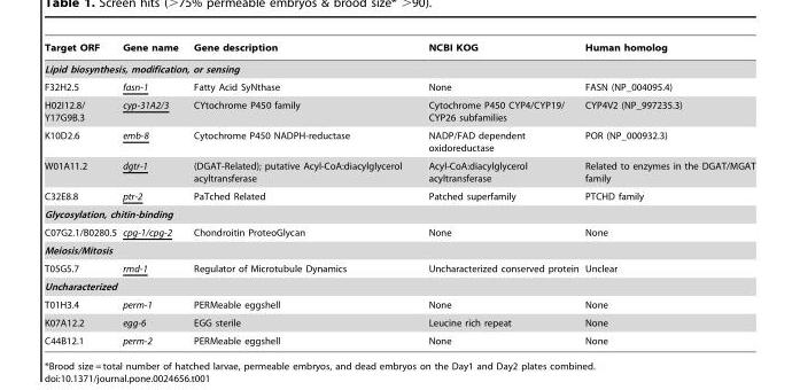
<table><thead><tr><td>Target ORF</td><td>Gene name</td><td>Gene description</td><td>NCBI KOG</td><td>Human homolog</td></tr></thead><tbody><tr><td colspan="5">Lipid biosynthesis, modification, or sensing</td></tr><tr><td>F32H2.5</td><td>fasn-1</td><td>Fatty Acid SyNthase</td><td>None</td><td>FASN (NP_004095.4)</td></tr><tr><td>H02I12.8/ Y17G9B.3</td><td>cyp-31A2/3</td><td>CYtochrome P450 family</td><td>Cytochrome P450 CYP4/CYP19/ CYP26 subfamilies</td><td>CYP4V2 (NP_997235.3)</td></tr><tr><td>K10D2.6</td><td>emb-8</td><td>Cytochrome P450 NADPH-reductase</td><td>NADP/FAD dependent oxidoreductase</td><td>POR (NP_000932.3)</td></tr><tr><td>W01A11.2</td><td>dgtr-1</td><td>(DGAT-Related); putative Acyl-CoA:diacylglycerol acyltransferase</td><td>Acyl-CoA:diacylglycerol acyltransferase</td><td>Related to enzymes in the DGAT/MGAT family</td></tr><tr><td>C32E8.8</td><td>ptr-2</td><td>PaTched Related</td><td>Patched superfamily</td><td>PTCHD family</td></tr><tr><td colspan="5">Glycosylation, chitin-binding</td></tr><tr><td>C07G2.1/B0280.5</td><td>cpg-1/cpg-2</td><td>Chondroitin ProteoGlycan</td><td>None</td><td>None</td></tr><tr><td colspan="5">Meiosis/Mitosis</td></tr><tr><td>T05G5.7</td><td>rmd-1</td><td>Regulator of Microtubule Dynamics</td><td>Uncharacterized conserved protein</td><td>Unclear</td></tr><tr><td colspan="5">Uncharacterized</td></tr><tr><td>T01H3.4</td><td>perm-1</td><td>PERMeable eggshell</td><td>None</td><td>None</td></tr><tr><td>K07A12.2</td><td>egg-6</td><td>EGG sterile</td><td>Leucine rich repeat</td><td>None</td></tr><tr><td>C44B12.1</td><td>perm-2</td><td>PERMeable eggshell</td><td>None</td><td>None</td></tr></tbody></table>